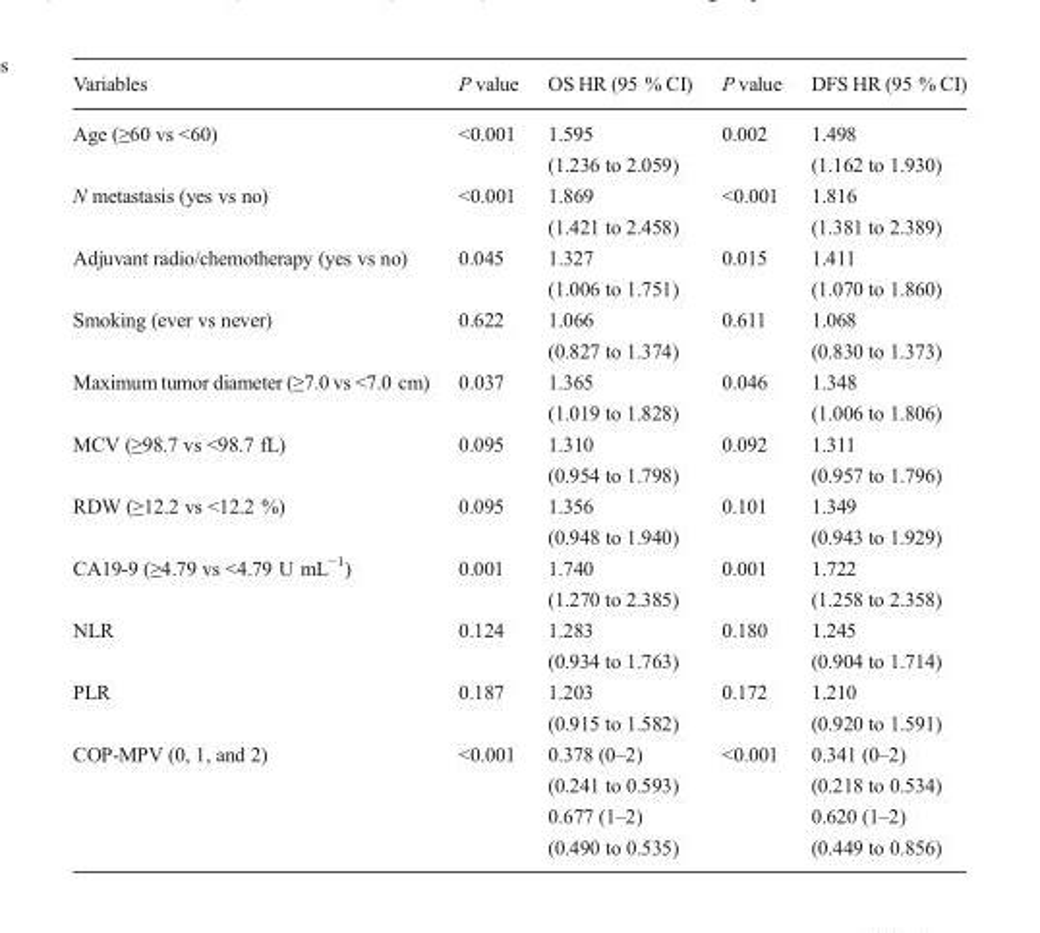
<table><thead><tr><td>Variables</td><td>P value</td><td>OS HR (95 % CI)</td><td>P value</td><td>DFS HR (95 % CI)</td></tr></thead><tbody><tr><td rowspan="2">Age (≥60 vs &lt;60)</td><td rowspan="2">&lt;0.001</td><td>1.595</td><td rowspan="2">0.002</td><td>1.498</td></tr><tr><td>(1.236 to 2.059)</td><td>(1.162 to 1.930)</td></tr><tr><td rowspan="2">N metastasis (yes vs no)</td><td rowspan="2">&lt;0.001</td><td>1.869</td><td rowspan="2">&lt;0.001</td><td>1.816</td></tr><tr><td>(1.421 to 2.458)</td><td>(1.381 to 2.389)</td></tr><tr><td rowspan="2">Adjuvant radio/chemotherapy (yes vs no)</td><td rowspan="2">0.045</td><td>1.327</td><td rowspan="2">0.015</td><td>1.411</td></tr><tr><td>(1.006 to 1.751)</td><td>(1.070 to 1.860)</td></tr><tr><td rowspan="2">Smoking (ever vs never)</td><td rowspan="2">0.622</td><td>1.066</td><td rowspan="2">0.611</td><td>1.068</td></tr><tr><td>(0.827 to 1.374)</td><td>(0.830 to 1.373)</td></tr><tr><td rowspan="2">Maximum tumor diameter (≥7.0 vs &lt;7.0 cm)</td><td rowspan="2">0.037</td><td>1.365</td><td rowspan="2">0.046</td><td>1.348</td></tr><tr><td>(1.019 to 1.828)</td><td>(1.006 to 1.806)</td></tr><tr><td rowspan="2">MCV (≥98.7 vs &lt;98.7 fL)</td><td rowspan="2">0.095</td><td>1.310</td><td rowspan="2">0.092</td><td>1.311</td></tr><tr><td>(0.954 to 1.798)</td><td>(0.957 to 1.796)</td></tr><tr><td rowspan="2">RDW (≥12.2 vs &lt;12.2 %)</td><td rowspan="2">0.095</td><td>1.356</td><td rowspan="2">0.101</td><td>1.349</td></tr><tr><td>(0.948 to 1.940)</td><td>(0.943 to 1.929)</td></tr><tr><td rowspan="2">CA19-9 (≥4.79 vs &lt;4.79 U mL<sup>−1</sup>)</td><td rowspan="2">0.001</td><td>1.740</td><td rowspan="2">0.001</td><td>1.722</td></tr><tr><td>(1.270 to 2.385)</td><td>(1.258 to 2.358)</td></tr><tr><td rowspan="2">NLR</td><td rowspan="2">0.124</td><td>1.283</td><td rowspan="2">0.180</td><td>1.245</td></tr><tr><td>(0.934 to 1.763)</td><td>(0.904 to 1.714)</td></tr><tr><td rowspan="2">PLR</td><td rowspan="2">0.187</td><td>1.203</td><td rowspan="2">0.172</td><td>1.210</td></tr><tr><td>(0.915 to 1.582)</td><td>(0.920 to 1.591)</td></tr><tr><td rowspan="4">COP-MPV (0, 1, and 2)</td><td rowspan="4">&lt;0.001</td><td>0.378 (0–2)</td><td rowspan="4">&lt;0.001</td><td>0.341 (0–2)</td></tr><tr><td>(0.241 to 0.593)</td><td>(0.218 to 0.534)</td></tr><tr><td>0.677 (1–2)</td><td>0.620 (1–2)</td></tr><tr><td>(0.490 to 0.535)</td><td>(0.449 to 0.856)</td></tr></tbody></table>